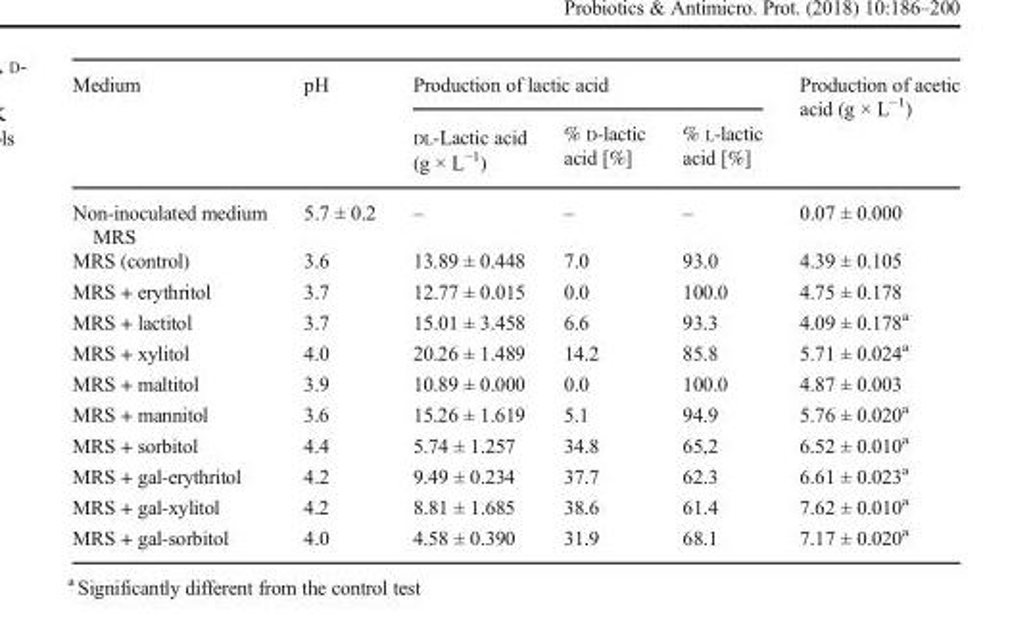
<table><thead><tr><td rowspan="2">Medium</td><td rowspan="2">pH</td><td colspan="3">Production of lactic acid</td><td rowspan="2">Production of acetic acid (g × L<sup>−1</sup>)</td></tr><tr><td>DL-Lactic acid (g × L<sup>−1</sup>)</td><td>% D-lactic acid [%]</td><td>% L-lactic acid [%]</td></tr></thead><tbody><tr><td>Non-inoculated medium MRS</td><td>5.7 ± 0.2</td><td>–</td><td>–</td><td>–</td><td>0.07 ± 0.000</td></tr><tr><td>MRS (control)</td><td>3.6</td><td>13.89 ± 0.448</td><td>7.0</td><td>93.0</td><td>4.39 ± 0.105</td></tr><tr><td>MRS + erythritol</td><td>3.7</td><td>12.77 ± 0.015</td><td>0.0</td><td>100.0</td><td>4.75 ± 0.178</td></tr><tr><td>MRS + lactitol</td><td>3.7</td><td>15.01 ± 3.458</td><td>6.6</td><td>93.3</td><td>4.09 ± 0.178<sup>a</sup></td></tr><tr><td>MRS + xylitol</td><td>4.0</td><td>20.26 ± 1.489</td><td>14.2</td><td>85.8</td><td>5.71 ± 0.024<sup>a</sup></td></tr><tr><td>MRS + maltitol</td><td>3.9</td><td>10.89 ± 0.000</td><td>0.0</td><td>100.0</td><td>4.87 ± 0.003</td></tr><tr><td>MRS + mannitol</td><td>3.6</td><td>15.26 ± 1.619</td><td>5.1</td><td>94.9</td><td>5.76 ± 0.020<sup>a</sup></td></tr><tr><td>MRS + sorbitol</td><td>4.4</td><td>5.74 ± 1.257</td><td>34.8</td><td>65,2</td><td>6.52 ± 0.010<sup>a</sup></td></tr><tr><td>MRS + gal-erythritol</td><td>4.2</td><td>9.49 ± 0.234</td><td>37.7</td><td>62.3</td><td>6.61 ± 0.023<sup>a</sup></td></tr><tr><td>MRS + gal-xylitol</td><td>4.2</td><td>8.81 ± 1.685</td><td>38.6</td><td>61.4</td><td>7.62 ± 0.010<sup>a</sup></td></tr><tr><td>MRS + gal-sorbitol</td><td>4.0</td><td>4.58 ± 0.390</td><td>31.9</td><td>68.1</td><td>7.17 ± 0.020<sup>a</sup></td></tr></tbody></table>